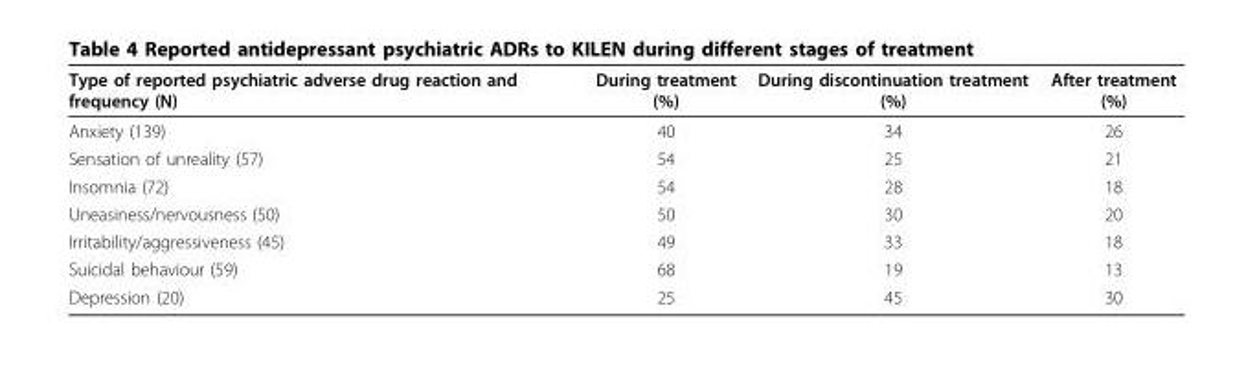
<table><thead><tr><td>Type of reported psychiatric adverse drug reaction and frequency (N)</td><td>During treatment (%)</td><td>During discontinuation treatment (%)</td><td>After treatment (%)</td></tr></thead><tbody><tr><td>Anxiety (139)</td><td>40</td><td>34</td><td>26</td></tr><tr><td>Sensation of unreality (57)</td><td>54</td><td>25</td><td>21</td></tr><tr><td>Insomnia (72)</td><td>54</td><td>28</td><td>18</td></tr><tr><td>Uneasiness/nervousness (50)</td><td>50</td><td>30</td><td>20</td></tr><tr><td>Irritability/aggressiveness (45)</td><td>49</td><td>33</td><td>18</td></tr><tr><td>Suicidal behaviour (59)</td><td>68</td><td>19</td><td>13</td></tr><tr><td>Depression (20)</td><td>25</td><td>45</td><td>30</td></tr></tbody></table>